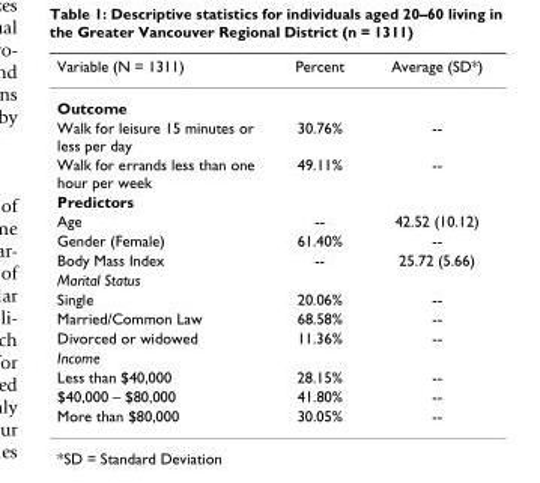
<table><thead><tr><td>Variable (N = 1311)</td><td>Percent</td><td>Average (SD*)</td></tr></thead><tbody><tr><td colspan="3">Outcome</td></tr><tr><td>Walk for leisure 15 minutes or less per day</td><td>30.76%</td><td>--</td></tr><tr><td>Walk for errands less than one hour per week</td><td>49.11%</td><td>--</td></tr><tr><td colspan="3">Predictors</td></tr><tr><td>Age</td><td>--</td><td>42.52 (10.12)</td></tr><tr><td>Gender (Female)</td><td>61.40%</td><td>--</td></tr><tr><td>Body Mass Index</td><td>--</td><td>25.72 (5.66)</td></tr><tr><td colspan="3">Marital Status</td></tr><tr><td>Single</td><td>20.06%</td><td>--</td></tr><tr><td>Married/Common Law</td><td>68.58%</td><td>--</td></tr><tr><td>Divorced or widowed</td><td>11.36%</td><td>--</td></tr><tr><td colspan="3">Income</td></tr><tr><td>Less than $40,000</td><td>28.15%</td><td>--</td></tr><tr><td>$40,000 – $80,000</td><td>41.80%</td><td>--</td></tr><tr><td>More than $80,000</td><td>30.05%</td><td>--</td></tr></tbody></table>